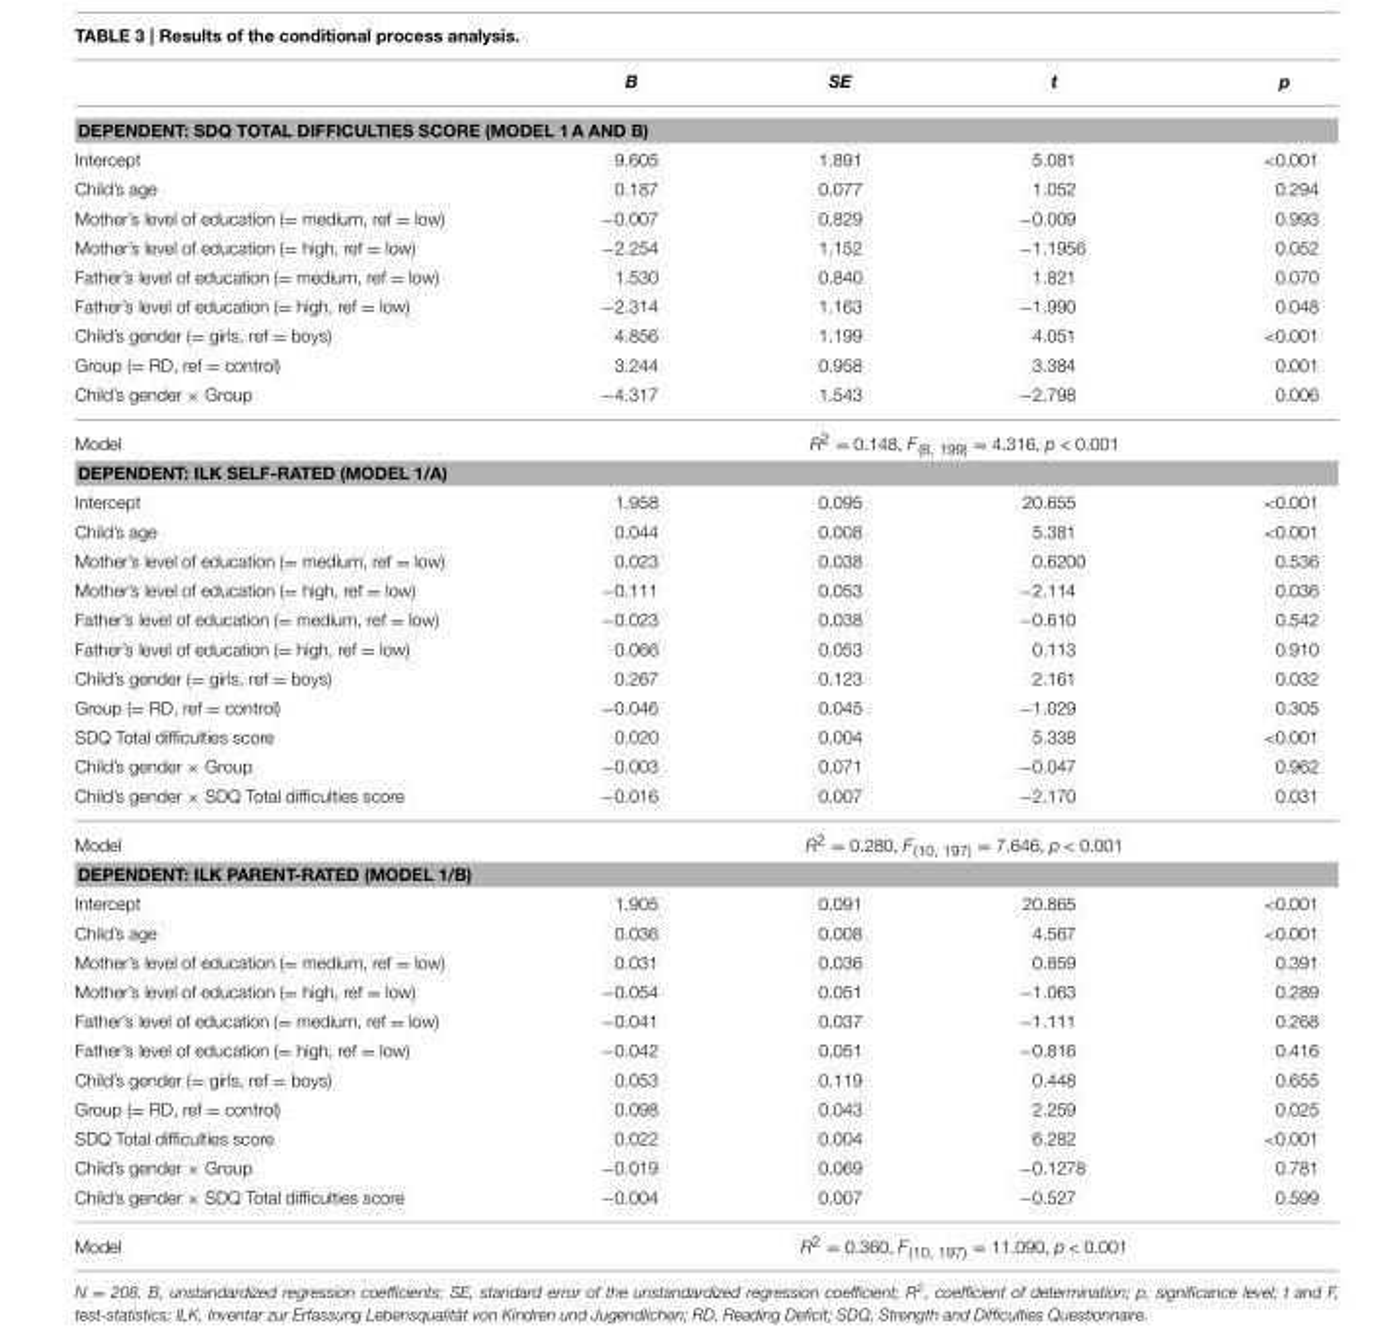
<table><thead><tr><td></td><td>B</td><td>SE</td><td>t</td><td>p</td></tr></thead><tbody><tr><td colspan="5">DEPENDENT: SDQ TOTAL DIFFICULTIES SCORE (MODEL 1 A AND B)</td></tr><tr><td>Intercept</td><td>9.605</td><td>1.891</td><td>5.081</td><td>&lt;0.001</td></tr><tr><td>Child’s age</td><td>0.187</td><td>0.077</td><td>1.052</td><td>0.294</td></tr><tr><td>Mother’s level of education (= medium, ref = low)</td><td>−0.007</td><td>0.829</td><td>−0.009</td><td>0.993</td></tr><tr><td>Mother’s level of education (= high, ref = low)</td><td>−2.254</td><td>1.152</td><td>−1.1956</td><td>0.052</td></tr><tr><td>Father’s level of education (= medium, ref = low)</td><td>1.530</td><td>0.840</td><td>1.821</td><td>0.070</td></tr><tr><td>Father’s level of education (= high, ref = low)</td><td>−2.314</td><td>1.163</td><td>−1.990</td><td>0.048</td></tr><tr><td>Child’s gender (= girls, ref = boys)</td><td>4.856</td><td>1.199</td><td>4.051</td><td>&lt;0.001</td></tr><tr><td>Group (= RD, ref = control)</td><td>3.244</td><td>0.958</td><td>3.384</td><td>0.001</td></tr><tr><td>Child’s gender × Group</td><td>−4.317</td><td>1.543</td><td>−2.798</td><td>0.006</td></tr><tr><td>Model</td><td colspan="4">R<sup>2</sup> = 0.148, F<sub>(8, 199)</sub> = 4.316, p &lt; 0.001</td></tr><tr><td colspan="5">DEPENDENT: ILK SELF-RATED (MODEL 1/A)</td></tr><tr><td>Intercept</td><td>1.958</td><td>0.095</td><td>20.655</td><td>&lt;0.001</td></tr><tr><td>Child’s age</td><td>0.044</td><td>0.008</td><td>5.381</td><td>&lt;0.001</td></tr><tr><td>Mother’s level of education (= medium, ref = low)</td><td>0.023</td><td>0.038</td><td>0.6200</td><td>0.536</td></tr><tr><td>Mother’s level of education (= high, ref = low)</td><td>−0.111</td><td>0.053</td><td>−2.114</td><td>0.036</td></tr><tr><td>Father’s level of education (= medium, ref = low)</td><td>−0.023</td><td>0.038</td><td>−0.610</td><td>0.542</td></tr><tr><td>Father’s level of education (= high, ref = low)</td><td>0.066</td><td>0.053</td><td>0.113</td><td>0.910</td></tr><tr><td>Child’s gender (= girls, ref = boys)</td><td>0.267</td><td>0.123</td><td>2.161</td><td>0.032</td></tr><tr><td>Group (= RD, ref = control)</td><td>−0.046</td><td>0.045</td><td>−1.029</td><td>0.305</td></tr><tr><td>SDQ Total difficulties score</td><td>0.020</td><td>0.004</td><td>5.338</td><td>&lt;0.001</td></tr><tr><td>Child’s gender × Group</td><td>−0.003</td><td>0.071</td><td>−0.047</td><td>0.962</td></tr><tr><td>Child’s gender × SDQ Total difficulties score</td><td>−0.016</td><td>0.007</td><td>−2.170</td><td>0.031</td></tr><tr><td>Model</td><td colspan="4">R<sup>2</sup> = 0.280, F<sub>(10, 197)</sub> = 7.646, p &lt; 0.001</td></tr><tr><td colspan="5">DEPENDENT: ILK PARENT-RATED (MODEL 1/B)</td></tr><tr><td>Intercept</td><td>1.905</td><td>0.091</td><td>20.865</td><td>&lt;0.001</td></tr><tr><td>Child’s age</td><td>0.036</td><td>0.008</td><td>4.567</td><td>&lt;0.001</td></tr><tr><td>Mother’s level of education (= medium, ref = low)</td><td>0.031</td><td>0.036</td><td>0.859</td><td>0.391</td></tr><tr><td>Mother’s level of education (= high, ref = low)</td><td>−0.054</td><td>0.051</td><td>−1.063</td><td>0.289</td></tr><tr><td>Father’s level of education (= medium, ref = low)</td><td>−0.041</td><td>0.037</td><td>−1.111</td><td>0.268</td></tr><tr><td>Father’s level of education (= high, ref = low)</td><td>−0.042</td><td>0.051</td><td>−0.816</td><td>0.416</td></tr><tr><td>Child’s gender (= girls, ref = boys)</td><td>0.053</td><td>0.119</td><td>0.448</td><td>0.655</td></tr><tr><td>Group (= RD, ref = control)</td><td>0.098</td><td>0.043</td><td>2.259</td><td>0.025</td></tr><tr><td>SDQ Total difficulties score</td><td>0.022</td><td>0.004</td><td>6.282</td><td>&lt;0.001</td></tr><tr><td>Child’s gender × Group</td><td>−0.019</td><td>0.069</td><td>−0.1278</td><td>0.781</td></tr><tr><td>Child’s gender × SDQ Total difficulties score</td><td>−0.004</td><td>0.007</td><td>−0.527</td><td>0.599</td></tr><tr><td>Model</td><td colspan="4">R<sup>2</sup> = 0.360, F<sub>(10, 197)</sub> = 11.090, p &lt; 0.001</td></tr></tbody></table>